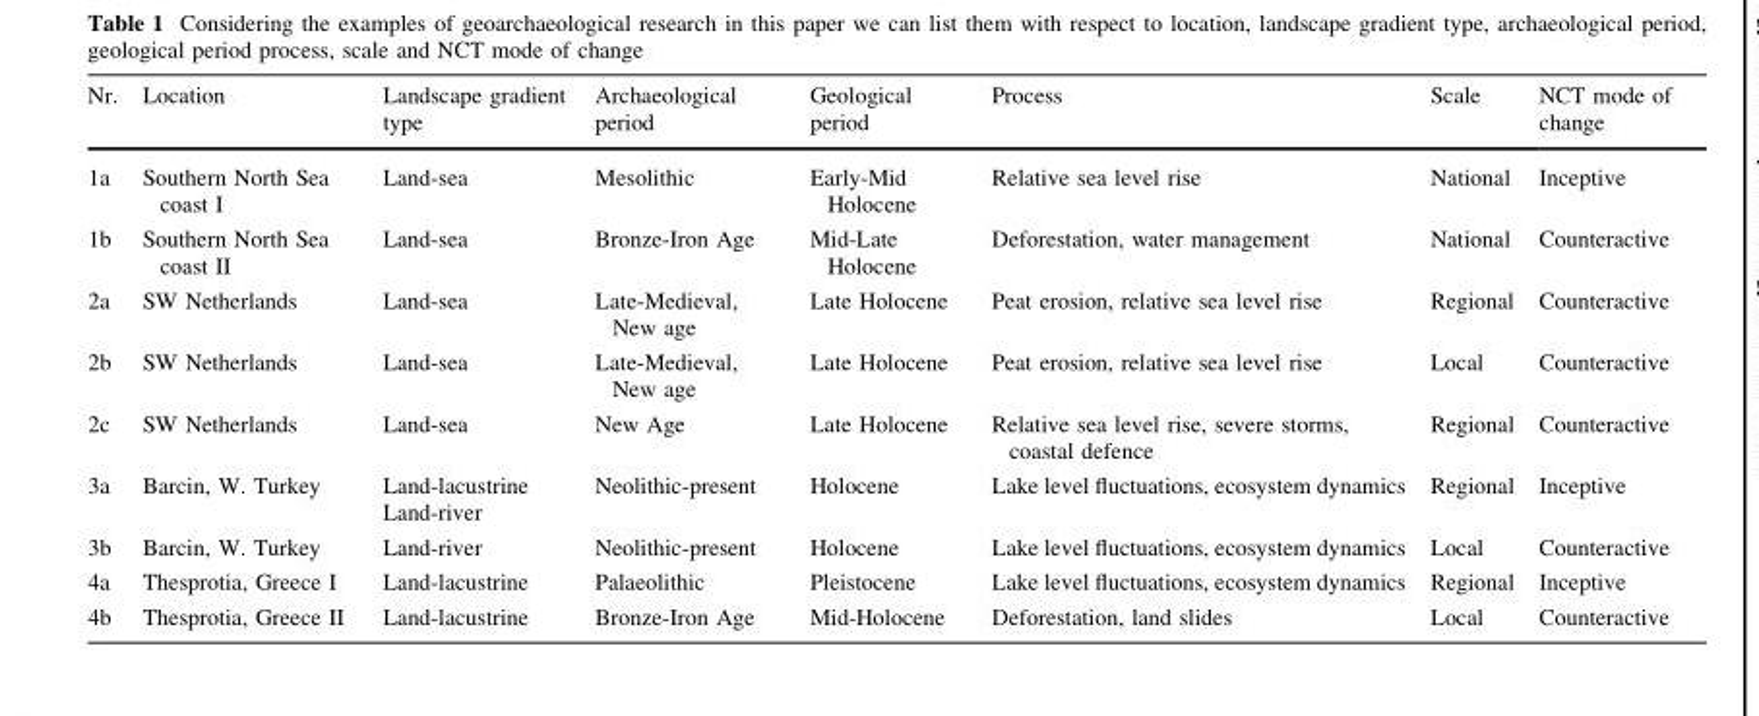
<table><thead><tr><td>Nr.</td><td>Location</td><td>Landscape gradient type</td><td>Archaeological period</td><td>Geological period</td><td>Process</td><td>Scale</td><td>NCT mode of change</td></tr></thead><tbody><tr><td>1a</td><td>Southern North Sea coast I</td><td>Land-sea</td><td>Mesolithic</td><td>Early-Mid Holocene</td><td>Relative sea level rise</td><td>National</td><td>Inceptive</td></tr><tr><td>1b</td><td>Southern North Sea coast II</td><td>Land-sea</td><td>Bronze-Iron Age</td><td>Mid-Late Holocene</td><td>Deforestation, water management</td><td>National</td><td>Counteractive</td></tr><tr><td>2a</td><td>SW Netherlands</td><td>Land-sea</td><td>Late-Medieval, New age</td><td>Late Holocene</td><td>Peat erosion, relative sea level rise</td><td>Regional</td><td>Counteractive</td></tr><tr><td>2b</td><td>SW Netherlands</td><td>Land-sea</td><td>Late-Medieval, New age</td><td>Late Holocene</td><td>Peat erosion, relative sea level rise</td><td>Local</td><td>Counteractive</td></tr><tr><td>2c</td><td>SW Netherlands</td><td>Land-sea</td><td>New Age</td><td>Late Holocene</td><td>Relative sea level rise, severe storms, coastal defence</td><td>Regional</td><td>Counteractive</td></tr><tr><td>3a</td><td>Barcin, W. Turkey</td><td>Land-lacustrine Land-river</td><td>Neolithic-present</td><td>Holocene</td><td>Lake level fluctuations, ecosystem dynamics</td><td>Regional</td><td>Inceptive</td></tr><tr><td>3b</td><td>Barcin, W. Turkey</td><td>Land-river</td><td>Neolithic-present</td><td>Holocene</td><td>Lake level fluctuations, ecosystem dynamics</td><td>Local</td><td>Counteractive</td></tr><tr><td>4a</td><td>Thesprotia, Greece I</td><td>Land-lacustrine</td><td>Palaeolithic</td><td>Pleistocene</td><td>Lake level fluctuations, ecosystem dynamics</td><td>Regional</td><td>Inceptive</td></tr><tr><td>4b</td><td>Thesprotia, Greece II</td><td>Land-lacustrine</td><td>Bronze-Iron Age</td><td>Mid-Holocene</td><td>Deforestation, land slides</td><td>Local</td><td>Counteractive</td></tr></tbody></table>